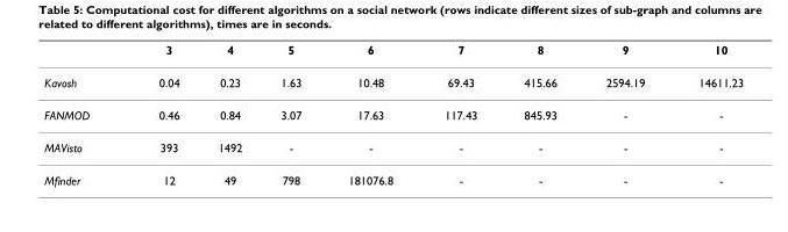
<table><thead><tr><td></td><td>3</td><td>4</td><td>5</td><td>6</td><td>7</td><td>8</td><td>9</td><td>10</td></tr></thead><tbody><tr><td>Kavosh</td><td>0.04</td><td>0.23</td><td>1.63</td><td>10.48</td><td>69.43</td><td>415.66</td><td>2594.19</td><td>14611.23</td></tr><tr><td>FANMOD</td><td>0.46</td><td>0.84</td><td>3.07</td><td>17.63</td><td>117.43</td><td>845.93</td><td>-</td><td>-</td></tr><tr><td>MAVisto</td><td>393</td><td>1492</td><td>-</td><td>-</td><td>-</td><td>-</td><td>-</td><td>-</td></tr><tr><td>Mfinder</td><td>12</td><td>49</td><td>798</td><td>181076.8</td><td>-</td><td>-</td><td>-</td><td>-</td></tr></tbody></table>